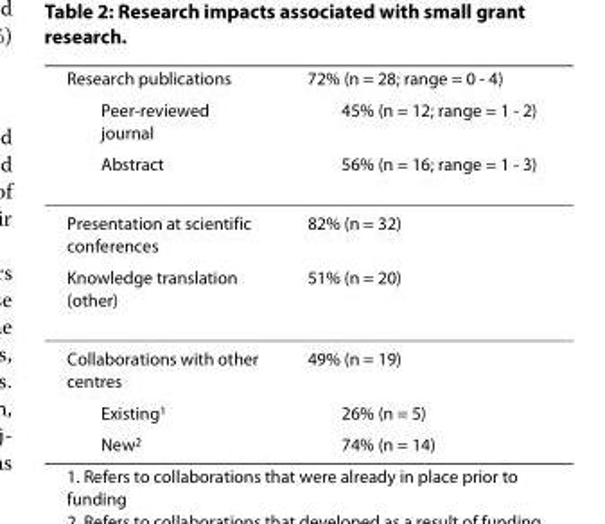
<table><thead><tr><td rowspan="3">Research publications Peer-reviewed journal Abstract</td><td rowspan="3">72% (n = 28; range = 0 - 4) 45% (n = 12; range = 1 - 2) 56% (n = 16; range = 1 - 3)</td></tr><tr></tr><tr></tr></thead><tbody><tr><td>Presentation at scientific conferences</td><td>82% (n = 32)</td></tr><tr><td>Knowledge translation (other)</td><td>51% (n = 20)</td></tr><tr><td>Collaborations with other centres</td><td>49% (n = 19)</td></tr><tr><td>Existing<sup>1</sup></td><td>26% (n = 5)</td></tr><tr><td>New<sup>2</sup></td><td>74% (n = 14)</td></tr></tbody></table>